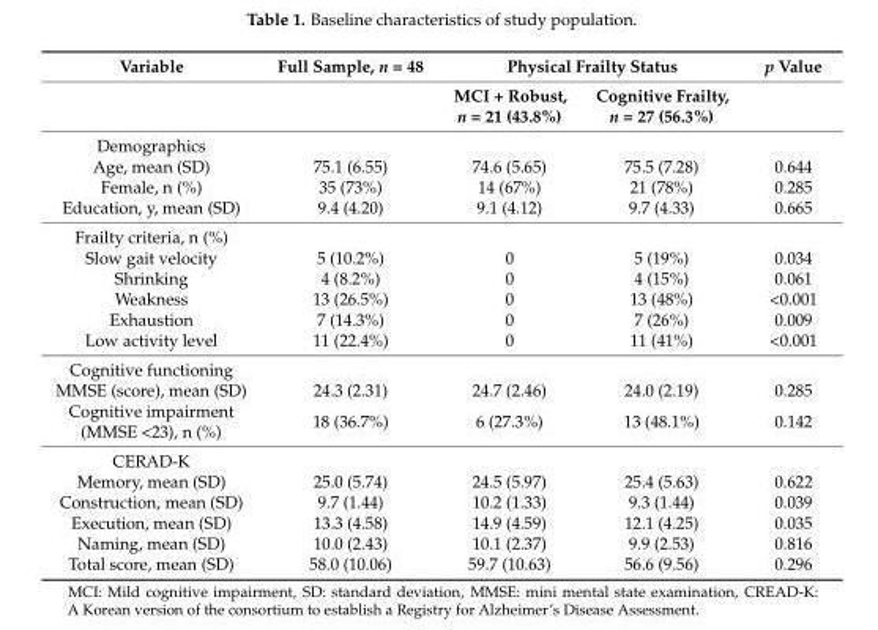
<table><thead><tr><td rowspan="2">Variable</td><td rowspan="2">Full Sample, n = 48</td><td colspan="2">Physical Frailty Status</td><td rowspan="2">p Value</td></tr><tr><td>MCI + Robust, n = 21 (43.8%)</td><td>Cognitive Frailty, n = 27 (56.3%)</td></tr></thead><tbody><tr><td colspan="5">Demographics</td></tr><tr><td>Age, mean (SD)</td><td>75.1 (6.55)</td><td>74.6 (5.65)</td><td>75.5 (7.28)</td><td>0.644</td></tr><tr><td>Female, n (%)</td><td>35 (73%)</td><td>14 (67%)</td><td>21 (78%)</td><td>0.285</td></tr><tr><td>Education, y, mean (SD)</td><td>9.4 (4.20)</td><td>9.1 (4.12)</td><td>9.7 (4.33)</td><td>0.665</td></tr><tr><td colspan="5">Frailty criteria, n (%)</td></tr><tr><td>Slow gait velocity</td><td>5 (10.2%)</td><td>0</td><td>5 (19%)</td><td>0.034</td></tr><tr><td>Shrinking</td><td>4 (8.2%)</td><td>0</td><td>4 (15%)</td><td>0.061</td></tr><tr><td>Weakness</td><td>13 (26.5%)</td><td>0</td><td>13 (48%)</td><td>&lt;0.001</td></tr><tr><td>Exhaustion</td><td>7 (14.3%)</td><td>0</td><td>7 (26%)</td><td>0.009</td></tr><tr><td>Low activity level</td><td>11 (22.4%)</td><td>0</td><td>11 (41%)</td><td>&lt;0.001</td></tr><tr><td colspan="5">Cognitive functioning</td></tr><tr><td>MMSE (score), mean (SD)</td><td>24.3 (2.31)</td><td>24.7 (2.46)</td><td>24.0 (2.19)</td><td>0.285</td></tr><tr><td>Cognitive impairment (MMSE &lt;23), n (%)</td><td>18 (36.7%)</td><td>6 (27.3%)</td><td>13 (48.1%)</td><td>0.142</td></tr><tr><td colspan="5">CERAD-K</td></tr><tr><td>Memory, mean (SD)</td><td>25.0 (5.74)</td><td>24.5 (5.97)</td><td>25.4 (5.63)</td><td>0.622</td></tr><tr><td>Construction, mean (SD)</td><td>9.7 (1.44)</td><td>10.2 (1.33)</td><td>9.3 (1.44)</td><td>0.039</td></tr><tr><td>Execution, mean (SD)</td><td>13.3 (4.58)</td><td>14.9 (4.59)</td><td>12.1 (4.25)</td><td>0.035</td></tr><tr><td>Naming, mean (SD)</td><td>10.0 (2.43)</td><td>10.1 (2.37)</td><td>9.9 (2.53)</td><td>0.816</td></tr><tr><td>Total score, mean (SD)</td><td>58.0 (10.06)</td><td>59.7 (10.63)</td><td>56.6 (9.56)</td><td>0.296</td></tr></tbody></table>